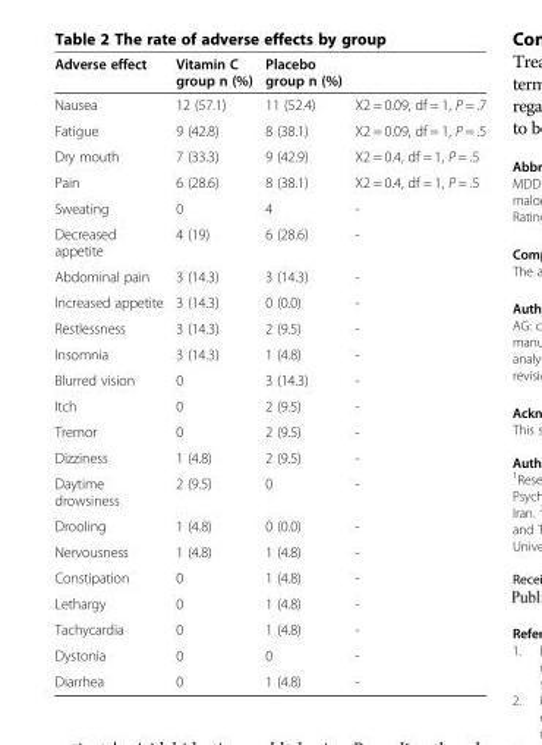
<table><thead><tr><td>Adverse effect</td><td>Vitamin C group n (%)</td><td>Placebo group n (%)</td><td></td></tr></thead><tbody><tr><td>Nausea</td><td>12 (57.1)</td><td>11 (52.4)</td><td>X2 = 0.09, df = 1, P = .7</td></tr><tr><td>Fatigue</td><td>9 (42.8)</td><td>8 (38.1)</td><td>X2 = 0.09, df = 1, P = .5</td></tr><tr><td>Dry mouth</td><td>7 (33.3)</td><td>9 (42.9)</td><td>X2 = 0.4, df = 1, P = .5</td></tr><tr><td>Pain</td><td>6 (28.6)</td><td>8 (38.1)</td><td>X2 = 0.4, df = 1, P = .5</td></tr><tr><td>Sweating</td><td>0</td><td>4</td><td>-</td></tr><tr><td>Decreased appetite</td><td>4 (19)</td><td>6 (28.6)</td><td>-</td></tr><tr><td>Abdominal pain</td><td>3 (14.3)</td><td>3 (14.3)</td><td>-</td></tr><tr><td>Increased appetite</td><td>3 (14.3)</td><td>0 (0.0)</td><td>-</td></tr><tr><td>Restlessness</td><td>3 (14.3)</td><td>2 (9.5)</td><td>-</td></tr><tr><td>Insomnia</td><td>3 (14.3)</td><td>1 (4.8)</td><td>-</td></tr><tr><td>Blurred vision</td><td>0</td><td>3 (14.3)</td><td>-</td></tr><tr><td>Itch</td><td>0</td><td>2 (9.5)</td><td>-</td></tr><tr><td>Tremor</td><td>0</td><td>2 (9.5)</td><td>-</td></tr><tr><td>Dizziness</td><td>1 (4.8)</td><td>2 (9.5)</td><td>-</td></tr><tr><td>Daytime drowsiness</td><td>2 (9.5)</td><td>0</td><td>-</td></tr><tr><td>Drooling</td><td>1 (4.8)</td><td>0 (0.0)</td><td>-</td></tr><tr><td>Nervousness</td><td>1 (4.8)</td><td>1 (4.8)</td><td>-</td></tr><tr><td>Constipation</td><td>0</td><td>1 (4.8)</td><td>-</td></tr><tr><td>Lethargy</td><td>0</td><td>1 (4.8)</td><td>-</td></tr><tr><td>Tachycardia</td><td>0</td><td>1 (4.8)</td><td>-</td></tr><tr><td>Dystonia</td><td>0</td><td>0</td><td>-</td></tr><tr><td>Diarrhea</td><td>0</td><td>1 (4.8)</td><td>-</td></tr></tbody></table>